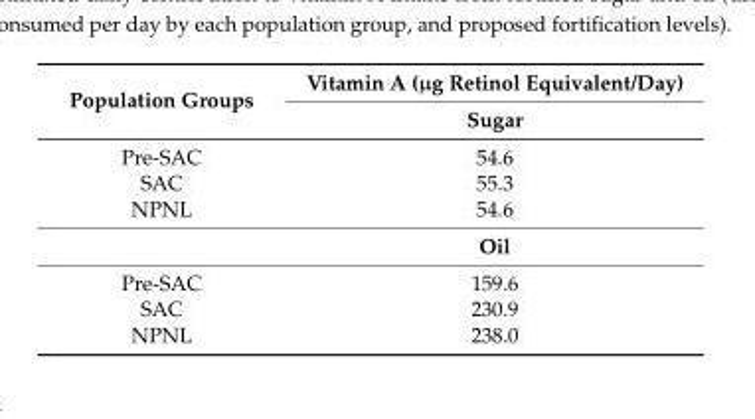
<table><thead><tr><td rowspan="2">Population Groups</td><td rowspan="2">Vitamin A (µg Retinol Equivalent/Day) Sugar</td></tr><tr></tr></thead><tbody><tr><td>Pre-SAC</td><td>54.6</td></tr><tr><td>SAC</td><td>55.3</td></tr><tr><td rowspan="2">NPNL</td><td>54.6</td></tr><tr><td>Oil</td></tr><tr><td>Pre-SAC</td><td>159.6</td></tr><tr><td>SAC</td><td>230.9</td></tr><tr><td>NPNL</td><td>238.0</td></tr></tbody></table>